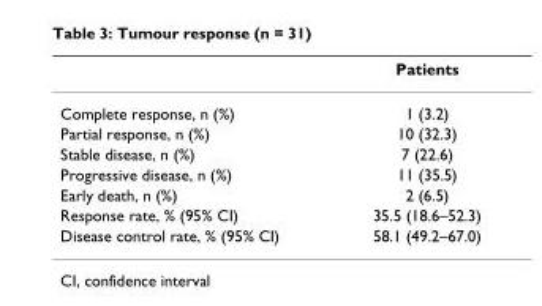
<table><thead><tr><td></td><td>Patients</td></tr></thead><tbody><tr><td>Complete response, n (%)</td><td>1 (3.2)</td></tr><tr><td>Partial response, n (%)</td><td>10 (32.3)</td></tr><tr><td>Stable disease, n (%)</td><td>7 (22.6)</td></tr><tr><td>Progressive disease, n (%)</td><td>11 (35.5)</td></tr><tr><td>Early death, n (%)</td><td>2 (6.5)</td></tr><tr><td>Response rate, % (95% CI)</td><td>35.5 (18.6–52.3)</td></tr><tr><td>Disease control rate, % (95% CI)</td><td>58.1 (49.2–67.0)</td></tr></tbody></table>